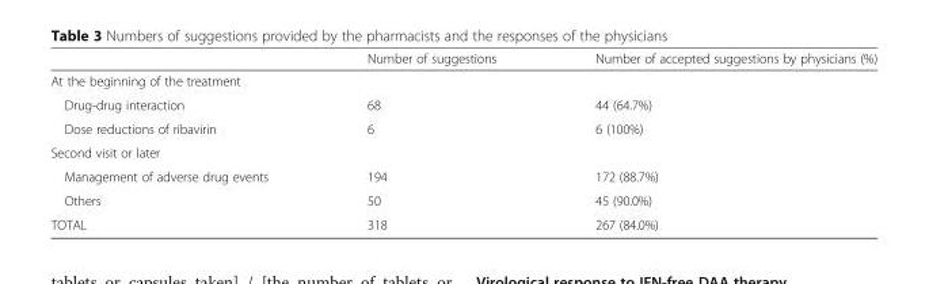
<table><thead><tr><td></td><td>Number of suggestions</td><td>Number of accepted suggestions by physicians (%)</td></tr></thead><tbody><tr><td colspan="3">At the beginning of the treatment</td></tr><tr><td>Drug-drug interaction</td><td>68</td><td>44 (64.7%)</td></tr><tr><td>Dose reductions of ribavirin</td><td>6</td><td>6 (100%)</td></tr><tr><td colspan="3">Second visit or later</td></tr><tr><td>Management of adverse drug events</td><td>194</td><td>172 (88.7%)</td></tr><tr><td>Others</td><td>50</td><td>45 (90.0%)</td></tr><tr><td>TOTAL</td><td>318</td><td>267 (84.0%)</td></tr></tbody></table>